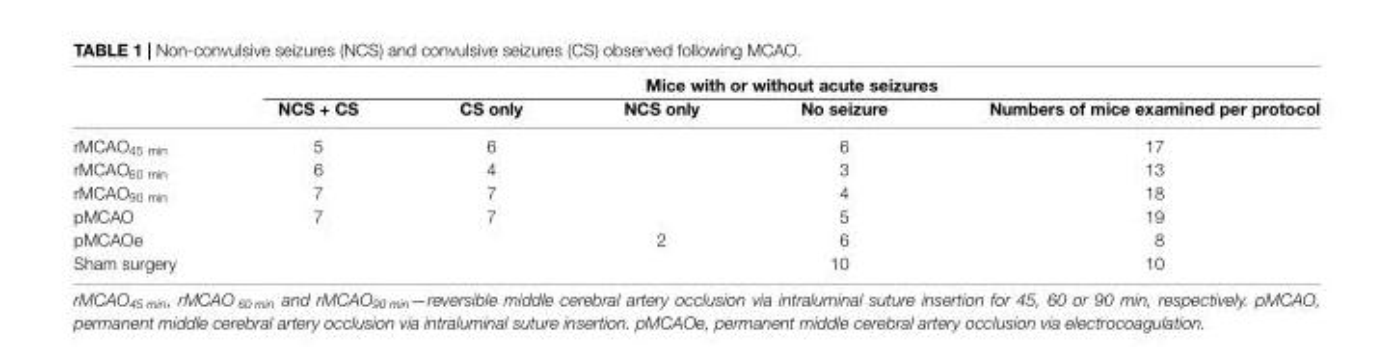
<table><thead><tr><td rowspan="2"></td><td colspan="5">Mice with or without acute seizures</td></tr><tr><td>NCS + CS</td><td>CS only</td><td>NCS only</td><td>No seizure</td><td>Numbers of mice examined per protocol</td></tr></thead><tbody><tr><td>rMCAO<sub>45 min</sub></td><td>5</td><td>6</td><td></td><td>6</td><td>17</td></tr><tr><td>rMCAO<sub>60 min</sub></td><td>6</td><td>4</td><td></td><td>3</td><td>13</td></tr><tr><td>rMCAO<sub>90 min</sub></td><td>7</td><td>7</td><td></td><td>4</td><td>18</td></tr><tr><td>pMCAO</td><td>7</td><td>7</td><td></td><td>5</td><td>19</td></tr><tr><td>pMCAOe</td><td></td><td></td><td>2</td><td>6</td><td>8</td></tr><tr><td>Sham surgery</td><td></td><td></td><td></td><td>10</td><td>10</td></tr></tbody></table>